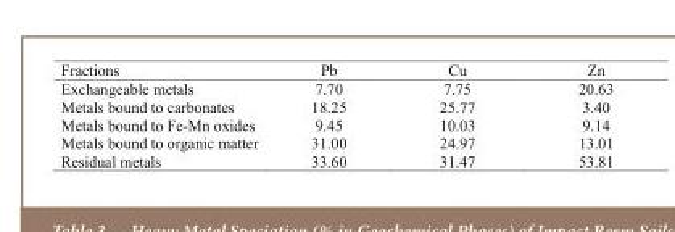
<table><thead><tr><td>Fractions</td><td>Pb</td><td>Cu</td><td>Zn</td></tr></thead><tbody><tr><td>Exchangeable metals</td><td>7.70</td><td>7.75</td><td>20.63</td></tr><tr><td>Metals bound to carbonates</td><td>18.25</td><td>25.77</td><td>3.40</td></tr><tr><td>Metals bound to Fe-Mn oxides</td><td>9.45</td><td>10.03</td><td>9.14</td></tr><tr><td>Metals bound to organic matter</td><td>31.00</td><td>24.97</td><td>13.01</td></tr><tr><td>Residual metals</td><td>33.60</td><td>31.47</td><td>53.81</td></tr></tbody></table>